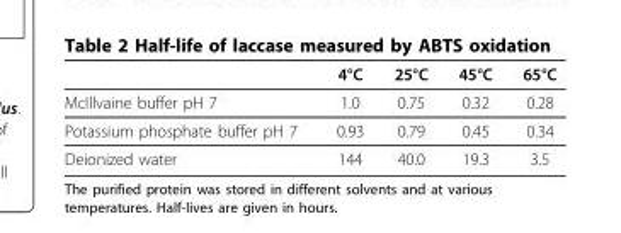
<table><thead><tr><td></td><td>4°C</td><td>25°C</td><td>45°C</td><td>65°C</td></tr></thead><tbody><tr><td>McIllvaine buffer pH 7</td><td>1.0</td><td>0.75</td><td>0.32</td><td>0.28</td></tr><tr><td>Potassium phosphate buffer pH 7</td><td>0.93</td><td>0.79</td><td>0.45</td><td>0.34</td></tr><tr><td>Deionized water</td><td>144</td><td>40.0</td><td>19.3</td><td>3.5</td></tr></tbody></table>